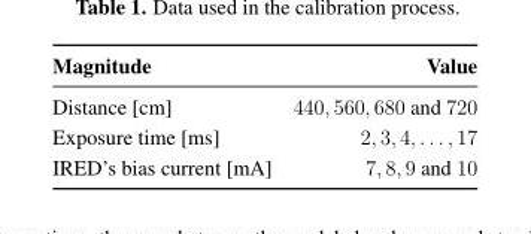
<table><thead><tr><td>Magnitude</td><td>Value</td></tr></thead><tbody><tr><td>Distance [cm]</td><td>440, 560, 680 and 720</td></tr><tr><td>Exposure time [ms]</td><td>2, 3, 4, . . . , 17</td></tr><tr><td>IRED’s bias current [mA]</td><td>7, 8, 9 and 10</td></tr></tbody></table>